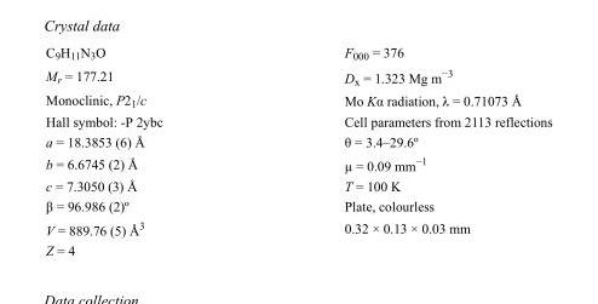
<table><tbody><tr><td>C<sub>9</sub>H<sub>11</sub>N<sub>3</sub>O</td><td>F000 = 376</td></tr><tr><td>M<sub>r</sub> = 177.21</td><td>D<sub>x</sub> = 1.323 Mg m<sup>−3</sup></td></tr><tr><td>Monoclinic, P2<sub>1</sub>/c</td><td>Mo Kα radiation, λ = 0.71073 Å</td></tr><tr><td>Hall symbol: -P 2ybc</td><td>Cell parameters from 2113 reflections</td></tr><tr><td>a = 18.3853 (6) Å</td><td>θ = 3.4–29.6º</td></tr><tr><td>b = 6.6745 (2) Å</td><td>µ = 0.09 mm<sup>−1</sup></td></tr><tr><td>c = 7.3050 (3) Å</td><td>T = 100 K</td></tr><tr><td>β = 96.986 (2)º</td><td>Plate, colourless</td></tr><tr><td>V = 889.76 (5) Å<sup>3</sup></td><td>0.32 × 0.13 × 0.03 mm</td></tr><tr><td>Z = 4</td><td></td></tr></tbody></table>